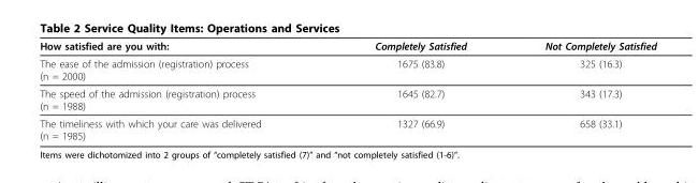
<table><thead><tr><td>How satisfied are you with:</td><td>Completely Satisfied</td><td>Not Completely Satisfied</td></tr></thead><tbody><tr><td>The ease of the admission (registration) process (n = 2000)</td><td>1675 (83.8)</td><td>325 (16.3)</td></tr><tr><td>The speed of the admission (registration) process (n = 1988)</td><td>1645 (82.7)</td><td>343 (17.3)</td></tr><tr><td>The timeliness with which your care was delivered (n = 1985)</td><td>1327 (66.9)</td><td>658 (33.1)</td></tr></tbody></table>